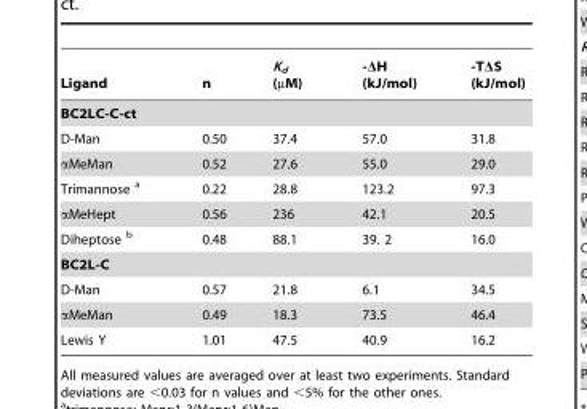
<table><thead><tr><td>Ligand</td><td>n</td><td>K<sub>d</sub> (µM)</td><td>-ΔH (kJ/mol)</td><td>-TΔS (kJ/mol)</td></tr></thead><tbody><tr><td colspan="5">BC2LC-C-ct</td></tr><tr><td>D-Man</td><td>0.50</td><td>37.4</td><td>57.0</td><td>31.8</td></tr><tr><td>αMeMan</td><td>0.52</td><td>27.6</td><td>55.0</td><td>29.0</td></tr><tr><td>Trimannose a</td><td>0.22</td><td>28.8</td><td>123.2</td><td>97.3</td></tr><tr><td>αMeHept</td><td>0.56</td><td>236</td><td>42.1</td><td>20.5</td></tr><tr><td>Diheptose b</td><td>0.48</td><td>88.1</td><td>39. 2</td><td>16.0</td></tr><tr><td colspan="5">BC2L-C</td></tr><tr><td>D-Man</td><td>0.57</td><td>21.8</td><td>6.1</td><td>34.5</td></tr><tr><td>αMeMan</td><td>0.49</td><td>18.3</td><td>73.5</td><td>46.4</td></tr><tr><td>Lewis Y</td><td>1.01</td><td>47.5</td><td>40.9</td><td>16.2</td></tr></tbody></table>